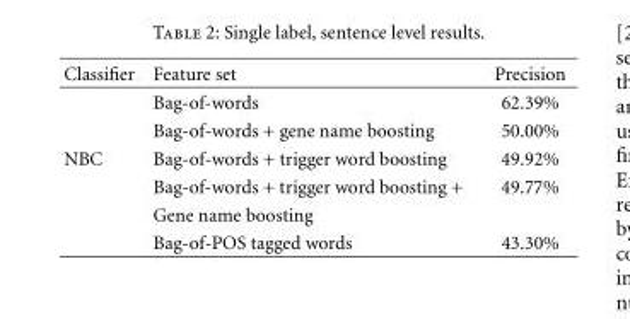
<table><thead><tr><td>Classifier</td><td>Feature set</td><td>Precision</td></tr></thead><tbody><tr><td></td><td>Bag-of-words</td><td>62.39%</td></tr><tr><td></td><td>Bag-of-words + gene name boosting</td><td>50.00%</td></tr><tr><td rowspan="4">NBC</td><td>Bag-of-words + trigger word boosting</td><td>49.92%</td></tr><tr><td>Bag-of-words + trigger word boosting +</td><td>49.77%</td></tr><tr><td>Gene name boosting</td><td></td></tr><tr><td>Bag-of-POS tagged words</td><td>43.30%</td></tr></tbody></table>